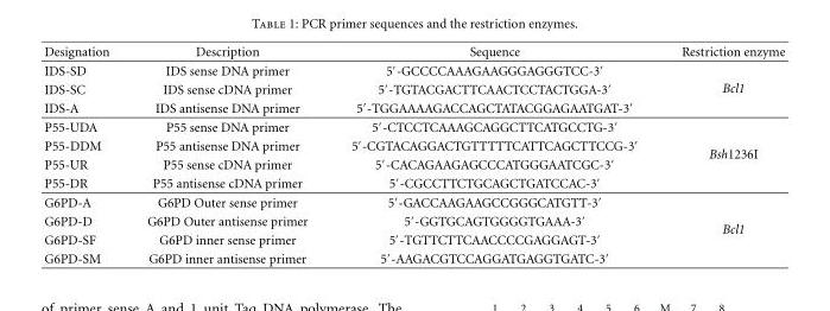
<table><thead><tr><td>Designation</td><td>Description</td><td>Sequence</td><td>Restriction enzyme</td></tr></thead><tbody><tr><td>IDS-SD</td><td>IDS sense DNA primer</td><td>5′-GCCCCAAAGAAGGGAGGGTCC-3′</td><td rowspan="3">Bcl1</td></tr><tr><td>IDS-SC</td><td>IDS sense cDNA primer</td><td>5′-TGTACGACTTCAACTCCTACTGGA-3′</td></tr><tr><td>IDS-A</td><td>IDS antisense DNA primer</td><td>5′-TGGAAAAGACCAGCTATACGGAGAATGAT-3′</td></tr><tr><td>P55-UDA</td><td>P55 sense DNA primer</td><td>5′-CTCCTCAAAGCAGGCTTCATGCCTG-3′</td><td rowspan="4">Bsh1236I</td></tr><tr><td>P55-DDM</td><td>P55 antisense DNA primer</td><td>5′-CGTACAGGACTGTTTTTCATTCAGCTTCCG-3′</td></tr><tr><td>P55-UR</td><td>P55 sense cDNA primer</td><td>5′-CACAGAAGAGCCCATGGGAATCGC-3′</td></tr><tr><td>P55-DR</td><td>P55 antisense cDNA primer</td><td>5′-CGCCTTCTGCAGCTGATCCAC-3′</td></tr><tr><td>G6PD-A</td><td>G6PD Outer sense primer</td><td>5′-GACCAAGAAGCCGGGCATGTT-3′</td><td rowspan="4">Bcl1</td></tr><tr><td>G6PD-D</td><td>G6PD Outer antisense primer</td><td>5′-GGTGCAGTGGGGTGAAA-3′</td></tr><tr><td>G6PD-SF</td><td>G6PD inner sense primer</td><td>5′-TGTTCTTCAACCCCGAGGAGT-3′</td></tr><tr><td>G6PD-SM</td><td>G6PD inner antisense primer</td><td>5′-AAGACGTCCAGGATGAGGTGATC-3′</td></tr></tbody></table>